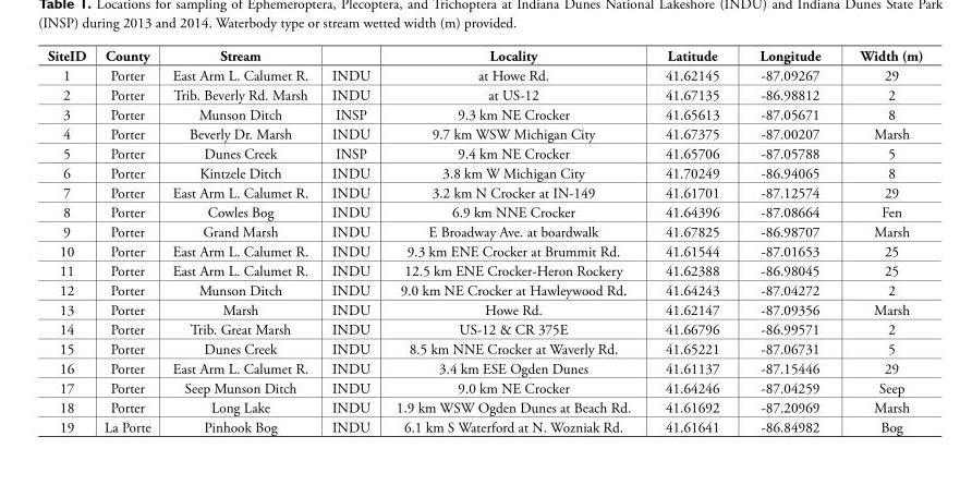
<table><thead><tr><td>SiteID</td><td>County</td><td>Stream</td><td></td><td>Locality</td><td>Latitude</td><td>Longitude</td><td>Width (m)</td></tr></thead><tbody><tr><td>1</td><td>Porter</td><td>East Arm L. Calumet R.</td><td>INDU</td><td>at Howe Rd.</td><td>41.62145</td><td>-87.09267</td><td>29</td></tr><tr><td>2</td><td>Porter</td><td>Trib. Beverly Rd. Marsh</td><td>INDU</td><td>at US-12</td><td>41.67135</td><td>-86.98812</td><td>2</td></tr><tr><td>3</td><td>Porter</td><td>Munson Ditch</td><td>INSP</td><td>9.3 km NE Crocker</td><td>41.65613</td><td>-87.05671</td><td>8</td></tr><tr><td>4</td><td>Porter</td><td>Beverly Dr. Marsh</td><td>INDU</td><td>9.7 km WSW Michigan City</td><td>41.67375</td><td>-87.00207</td><td>Marsh</td></tr><tr><td>5</td><td>Porter</td><td>Dunes Creek</td><td>INSP</td><td>9.4 km NE Crocker</td><td>41.65706</td><td>-87.05788</td><td>5</td></tr><tr><td>6</td><td>Porter</td><td>Kintzele Ditch</td><td>INDU</td><td>3.8 km W Michigan City</td><td>41.70249</td><td>-86.94065</td><td>8</td></tr><tr><td>7</td><td>Porter</td><td>East Arm L. Calumet R.</td><td>INDU</td><td>3.2 km N Crocker at IN-149</td><td>41.61701</td><td>-87.12574</td><td>29</td></tr><tr><td>8</td><td>Porter</td><td>Cowles Bog</td><td>INDU</td><td>6.9 km NNE Crocker</td><td>41.64396</td><td>-87.08664</td><td>Fen</td></tr><tr><td>9</td><td>Porter</td><td>Grand Marsh</td><td>INDU</td><td>E Broadway Ave. at boardwalk</td><td>41.67825</td><td>-86.98707</td><td>Marsh</td></tr><tr><td>10</td><td>Porter</td><td>East Arm L. Calumet R.</td><td>INDU</td><td>9.3 km ENE Crocker at Brummit Rd.</td><td>41.61544</td><td>-87.01653</td><td>25</td></tr><tr><td>11</td><td>Porter</td><td>East Arm L. Calumet R.</td><td>INDU</td><td>12.5 km ENE Crocker-Heron Rockery</td><td>41.62388</td><td>-86.98045</td><td>25</td></tr><tr><td>12</td><td>Porter</td><td>Munson Ditch</td><td>INDU</td><td>9.0 km NE Crocker at Hawleywood Rd.</td><td>41.64243</td><td>-87.04272</td><td>2</td></tr><tr><td>13</td><td>Porter</td><td>Marsh</td><td>INDU</td><td>Howe Rd.</td><td>41.62147</td><td>-87.09356</td><td>Marsh</td></tr><tr><td>14</td><td>Porter</td><td>Trib. Great Marsh</td><td>INDU</td><td>US-12 &amp; CR 375E</td><td>41.66796</td><td>-86.99571</td><td>2</td></tr><tr><td>15</td><td>Porter</td><td>Dunes Creek</td><td>INDU</td><td>8.5 km NNE Crocker at Waverly Rd.</td><td>41.65221</td><td>-87.06731</td><td>5</td></tr><tr><td>16</td><td>Porter</td><td>East Arm L. Calumet R.</td><td>INDU</td><td>3.4 km ESE Ogden Dunes</td><td>41.61137</td><td>-87.15446</td><td>29</td></tr><tr><td>17</td><td>Porter</td><td>Seep Munson Ditch</td><td>INDU</td><td>9.0 km NE Crocker</td><td>41.64246</td><td>-87.04259</td><td>Seep</td></tr><tr><td>18</td><td>Porter</td><td>Long Lake</td><td>INDU</td><td>1.9 km WSW Ogden Dunes at Beach Rd.</td><td>41.61692</td><td>-87.20969</td><td>Marsh</td></tr><tr><td>19</td><td>La Porte</td><td>Pinhook Bog</td><td>INDU</td><td>6.1 km S Waterford at N. Wozniak Rd.</td><td>41.61641</td><td>-86.84982</td><td>Bog</td></tr></tbody></table>